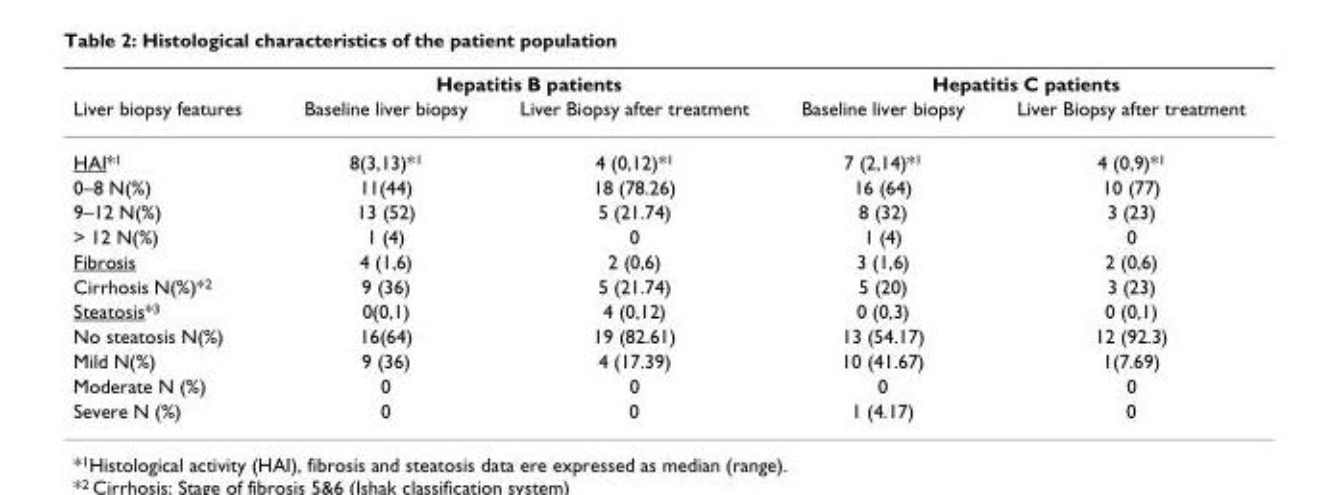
<table><thead><tr><td rowspan="2">Liver biopsy features</td><td colspan="2">Hepatitis B patients</td><td colspan="2">Hepatitis C patients</td></tr><tr><td>Baseline liver biopsy</td><td>Liver Biopsy after treatment</td><td>Baseline liver biopsy</td><td>Liver Biopsy after treatment</td></tr></thead><tbody><tr><td>HAI*1</td><td>8(3,13)*1</td><td>4 (0,12)*1</td><td>7 (2,14)*1</td><td>4 (0,9)*1</td></tr><tr><td>0–8 N(%)</td><td>11(44)</td><td>18 (78.26)</td><td>16 (64)</td><td>10 (77)</td></tr><tr><td>9–12 N(%)</td><td>13 (52)</td><td>5 (21.74)</td><td>8 (32)</td><td>3 (23)</td></tr><tr><td>&gt; 12 N(%)</td><td>1 (4)</td><td>0</td><td>1 (4)</td><td>0</td></tr><tr><td>Fibrosis</td><td>4 (1,6)</td><td>2 (0,6)</td><td>3 (1,6)</td><td>2 (0,6)</td></tr><tr><td>Cirrhosis N(%)*2</td><td>9 (36)</td><td>5 (21.74)</td><td>5 (20)</td><td>3 (23)</td></tr><tr><td>Steatosis*3</td><td>0(0,1)</td><td>4 (0,12)</td><td>0 (0,3)</td><td>0 (0,1)</td></tr><tr><td>No steatosis N(%)</td><td>16(64)</td><td>19 (82.61)</td><td>13 (54.17)</td><td>12 (92.3)</td></tr><tr><td>Mild N(%)</td><td>9 (36)</td><td>4 (17.39)</td><td>10 (41.67)</td><td>1(7.69)</td></tr><tr><td>Moderate N (%)</td><td>0</td><td>0</td><td>0</td><td>0</td></tr><tr><td>Severe N (%)</td><td>0</td><td>0</td><td>1 (4.17)</td><td>0</td></tr></tbody></table>